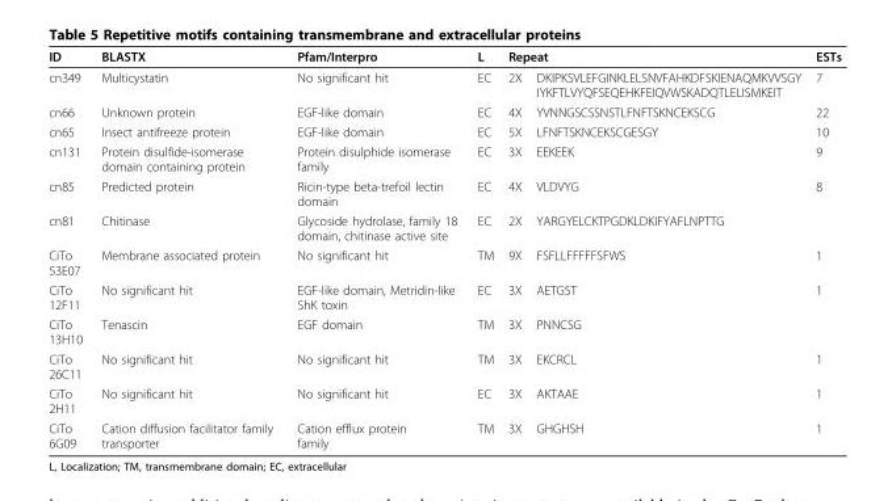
<table><thead><tr><td rowspan="2">ID cn349</td><td rowspan="2">BLASTX Multicystatin</td><td rowspan="2">Pfam/Interpro No significant hit</td><td rowspan="2">L EC</td><td colspan="2">Repeat</td><td rowspan="2">ESTs 7</td></tr><tr><td>2X</td><td>DKIPKSVLEFGINKLELSNVFAHKDFSKIENAQMKVVSGY IYKFTLVYQFSEQEHKFEIQVWSKADQTLELISMKEIT</td></tr></thead><tbody><tr><td>cn66</td><td>Unknown protein</td><td>EGF-like domain</td><td>EC</td><td>4X</td><td>YVNNGSCSSNSTLFNFTSKNCEKSCG</td><td>22</td></tr><tr><td>cn65</td><td>Insect antifreeze protein</td><td>EGF-like domain</td><td>EC</td><td>5X</td><td>LFNFTSKNCEKSCGESGY</td><td>10</td></tr><tr><td>cn131</td><td>Protein disulfide-isomerase domain containing protein</td><td>Protein disulphide isomerase family</td><td>EC</td><td>3X</td><td>EEKEEK</td><td>9</td></tr><tr><td>cn85</td><td>Predicted protein</td><td>Ricin-type beta-trefoil lectin domain</td><td>EC</td><td>4X</td><td>VLDVYG</td><td>8</td></tr><tr><td>cn81</td><td>Chitinase</td><td>Glycoside hydrolase, family 18 domain, chitinase active site</td><td>EC</td><td>2X</td><td>YARGYELCKTPGDKLDKIFYAFLNPTTG</td><td></td></tr><tr><td>CiTo 53E07</td><td>Membrane associated protein</td><td>No significant hit</td><td>TM</td><td>9X</td><td>FSFLLFFFFFSFWS</td><td>1</td></tr><tr><td>CiTo 12F11</td><td>No significant hit</td><td>EGF-like domain, Metridin-like ShK toxin</td><td>EC</td><td>3X</td><td>AETGST</td><td>1</td></tr><tr><td>CiTo 13H10</td><td>Tenascin</td><td>EGF domain</td><td>TM</td><td>3X</td><td>PNNCSG</td><td></td></tr><tr><td>CiTo 26C11</td><td>No significant hit</td><td>No significant hit</td><td>TM</td><td>3X</td><td>EKCRCL</td><td>1</td></tr><tr><td>CiTo 2H11</td><td>No significant hit</td><td>No significant hit</td><td>EC</td><td>3X</td><td>AKTAAE</td><td>1</td></tr><tr><td>CiTo 6G09</td><td>Cation diffusion facilitator family transporter</td><td>Cation efflux protein family</td><td>TM</td><td>3X</td><td>GHGHSH</td><td>1</td></tr></tbody></table>